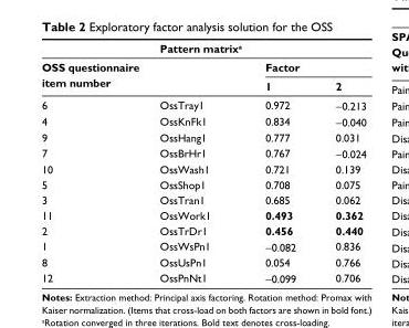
<table><thead><tr><td colspan="4">Pattern matrix<sup>a</sup></td></tr><tr><td rowspan="2">OSS questionnaire item number</td><td rowspan="2"></td><td colspan="2">Factor</td></tr><tr><td>1</td><td>2</td></tr></thead><tbody><tr><td>6</td><td>OssTray1</td><td>0.972</td><td>−0.213</td></tr><tr><td>4</td><td>OssKnFk1</td><td>0.834</td><td>−0.040</td></tr><tr><td>9</td><td>OssHang1</td><td>0.777</td><td>0.031</td></tr><tr><td>7</td><td>OssBrHr1</td><td>0.767</td><td>−0.024</td></tr><tr><td>10</td><td>OssWash1</td><td>0.721</td><td>0.139</td></tr><tr><td>5</td><td>OssShop1</td><td>0.708</td><td>0.075</td></tr><tr><td>3</td><td>OssTran1</td><td>0.685</td><td>0.062</td></tr><tr><td>11</td><td>OssWork1</td><td>0.493</td><td>0.362</td></tr><tr><td>2</td><td>OssTrDr1</td><td>0.456</td><td>0.440</td></tr><tr><td>1</td><td>OssWsPn1</td><td>−0.082</td><td>0.836</td></tr><tr><td>8</td><td>OssUsPn1</td><td>0.054</td><td>0.766</td></tr><tr><td>12</td><td>OssPnNt1</td><td>−0.099</td><td>0.706</td></tr></tbody></table>